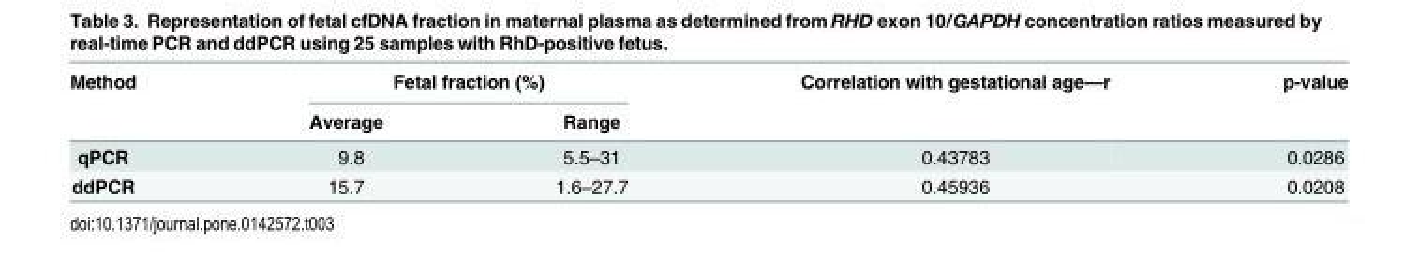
<table><thead><tr><td rowspan="2">Method</td><td colspan="2">Fetal fraction (%)</td><td rowspan="2">Correlation with gestational age—r</td><td rowspan="2">p-value</td></tr><tr><td>Average</td><td>Range</td></tr></thead><tbody><tr><td>qPCR</td><td>9.8</td><td>5.5–31</td><td>0.43783</td><td>0.0286</td></tr><tr><td>ddPCR</td><td>15.7</td><td>1.6–27.7</td><td>0.45936</td><td>0.0208</td></tr></tbody></table>